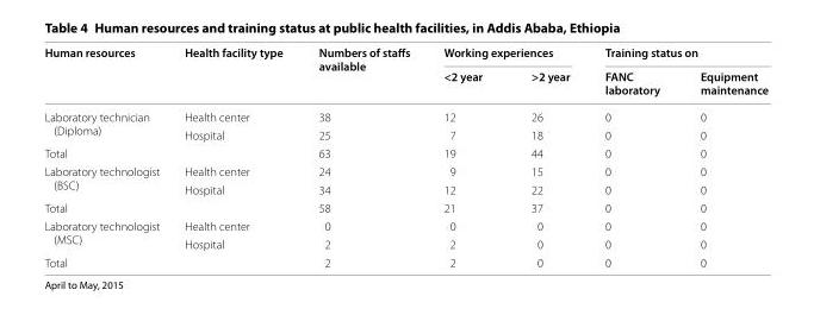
<table><thead><tr><td rowspan="2">Human resources</td><td rowspan="2">Health facility type</td><td rowspan="2">Numbers of staffs available</td><td colspan="2">Working experiences</td><td colspan="2">Training status on</td></tr><tr><td>&lt;2 year</td><td>&gt;2 year</td><td>FANC laboratory</td><td>Equipment maintenance</td></tr></thead><tbody><tr><td rowspan="2">Laboratory technician (Diploma)</td><td>Health center</td><td>38</td><td>12</td><td>26</td><td>0</td><td>0</td></tr><tr><td>Hospital</td><td>25</td><td>7</td><td>18</td><td>0</td><td>0</td></tr><tr><td colspan="2">Total</td><td>63</td><td>19</td><td>44</td><td>0</td><td>0</td></tr><tr><td rowspan="2">Laboratory technologist (BSC)</td><td>Health center</td><td>24</td><td>9</td><td>15</td><td>0</td><td>0</td></tr><tr><td>Hospital</td><td>34</td><td>12</td><td>22</td><td>0</td><td>0</td></tr><tr><td colspan="2">Total</td><td>58</td><td>21</td><td>37</td><td>0</td><td>0</td></tr><tr><td rowspan="2">Laboratory technologist (MSC)</td><td>Health center</td><td>0</td><td>0</td><td>0</td><td>0</td><td>0</td></tr><tr><td>Hospital</td><td>2</td><td>2</td><td>0</td><td>0</td><td>0</td></tr><tr><td colspan="2">Total</td><td>2</td><td>2</td><td>0</td><td>0</td><td>0</td></tr></tbody></table>